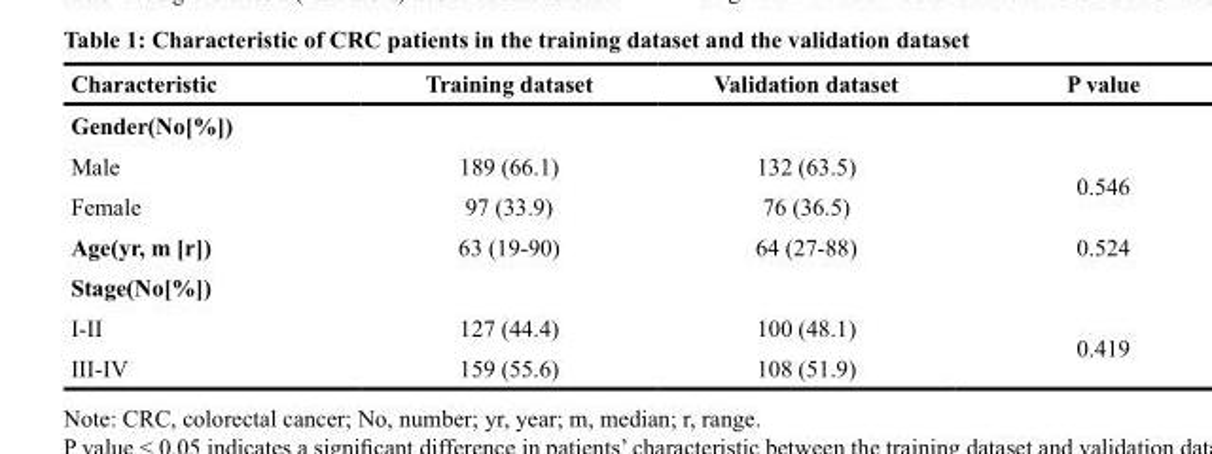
<table><thead><tr><td>Characteristic</td><td>Training dataset</td><td>Validation dataset</td><td>P value</td></tr></thead><tbody><tr><td colspan="4">Gender(No[%])</td></tr><tr><td>Male</td><td>189 (66.1)</td><td>132 (63.5)</td><td rowspan="2">0.546</td></tr><tr><td>Female</td><td>97 (33.9)</td><td>76 (36.5)</td></tr><tr><td>Age(yr, m [r])</td><td>63 (19-90)</td><td>64 (27-88)</td><td>0.524</td></tr><tr><td colspan="4">Stage(No[%])</td></tr><tr><td>I-II</td><td>127 (44.4)</td><td>100 (48.1)</td><td rowspan="2">0.419</td></tr><tr><td>III-IV</td><td>159 (55.6)</td><td>108 (51.9)</td></tr></tbody></table>